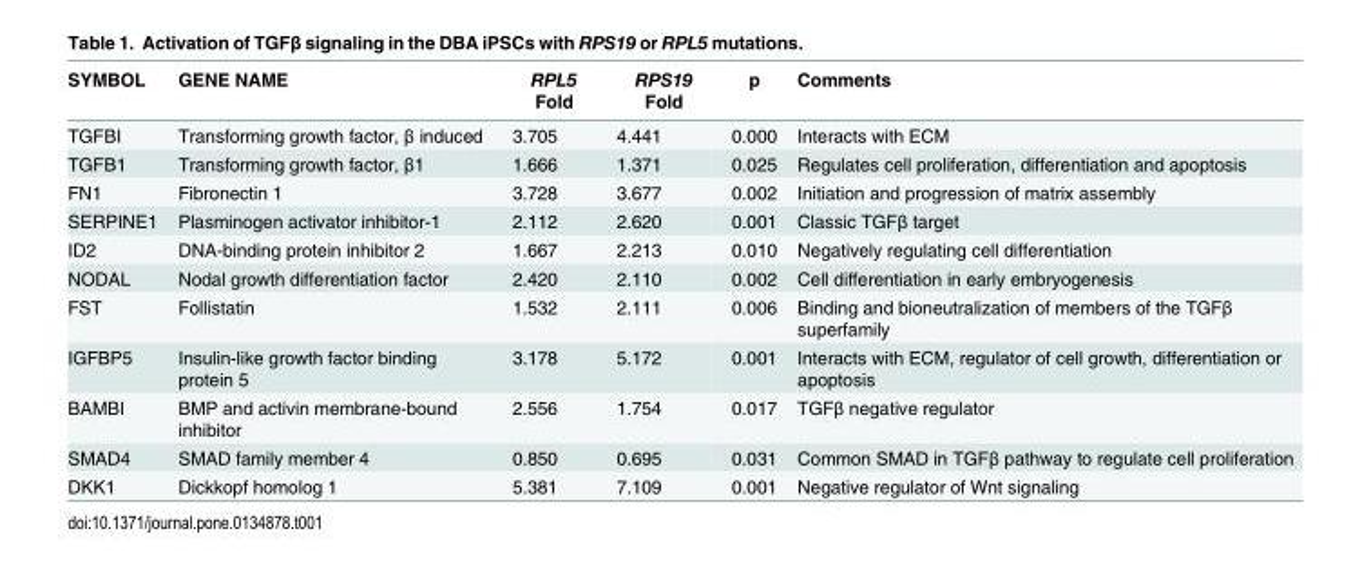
<table><thead><tr><td>SYMBOL</td><td>GENE NAME</td><td>RPL5 Fold</td><td>RPS19 Fold</td><td>p</td><td>Comments</td></tr></thead><tbody><tr><td>TGFBI</td><td>Transforming growth factor, β induced</td><td>3.705</td><td>4.441</td><td>0.000</td><td>Interacts with ECM</td></tr><tr><td>TGFB1</td><td>Transforming growth factor, β1</td><td>1.666</td><td>1.371</td><td>0.025</td><td>Regulates cell proliferation, differentiation and apoptosis</td></tr><tr><td>FN1</td><td>Fibronectin 1</td><td>3.728</td><td>3.677</td><td>0.002</td><td>Initiation and progression of matrix assembly</td></tr><tr><td>SERPINE1</td><td>Plasminogen activator inhibitor-1</td><td>2.112</td><td>2.620</td><td>0.001</td><td>Classic TGFβ target</td></tr><tr><td>ID2</td><td>DNA-binding protein inhibitor 2</td><td>1.667</td><td>2.213</td><td>0.010</td><td>Negatively regulating cell differentiation</td></tr><tr><td>NODAL</td><td>Nodal growth differentiation factor</td><td>2.420</td><td>2.110</td><td>0.002</td><td>Cell differentiation in early embryogenesis</td></tr><tr><td>FST</td><td>Follistatin</td><td>1.532</td><td>2.111</td><td>0.006</td><td>Binding and bioneutralization of members of the TGFβ superfamily</td></tr><tr><td>IGFBP5</td><td>Insulin-like growth factor binding protein 5</td><td>3.178</td><td>5.172</td><td>0.001</td><td>Interacts with ECM, regulator of cell growth, differentiation or apoptosis</td></tr><tr><td>BAMBI</td><td>BMP and activin membrane-bound inhibitor</td><td>2.556</td><td>1.754</td><td>0.017</td><td>TGFβ negative regulator</td></tr><tr><td>SMAD4</td><td>SMAD family member 4</td><td>0.850</td><td>0.695</td><td>0.031</td><td>Common SMAD in TGFβ pathway to regulate cell proliferation</td></tr><tr><td>DKK1</td><td>Dickkopf homolog 1</td><td>5.381</td><td>7.109</td><td>0.001</td><td>Negative regulator of Wnt signaling</td></tr></tbody></table>